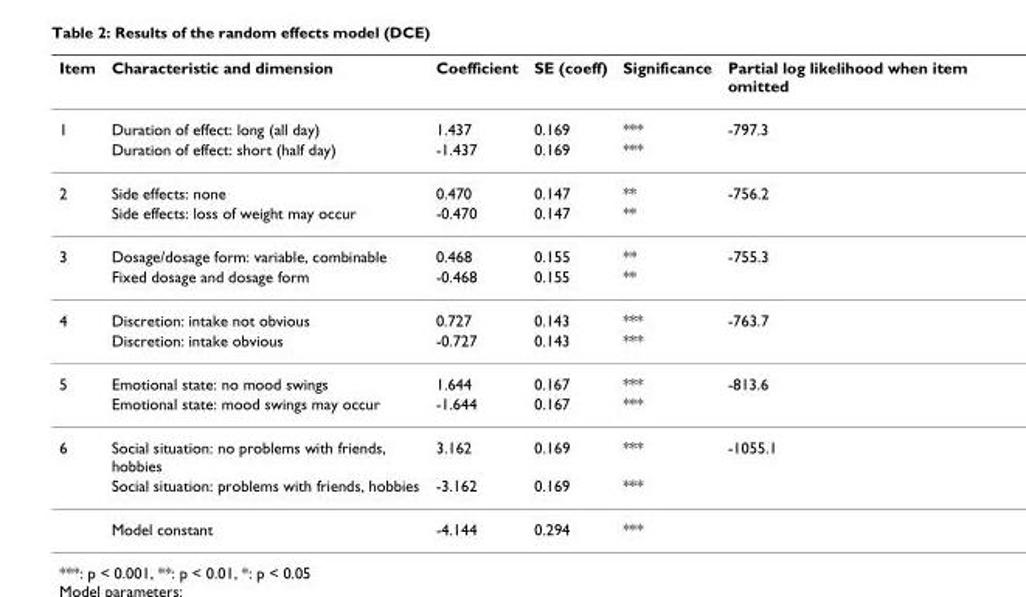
<table><thead><tr><td>Item</td><td>Characteristic and dimension</td><td>Coefficient</td><td>SE (coeff)</td><td>Significance</td><td>Partial log likelihood when item omitted</td></tr></thead><tbody><tr><td rowspan="2">1</td><td>Duration of effect: long (all day)</td><td>1.437</td><td>0.169</td><td>***</td><td>-797.3</td></tr><tr><td>Duration of effect: short (half day)</td><td>-1.437</td><td>0.169</td><td>***</td><td></td></tr><tr><td rowspan="2">2</td><td>Side effects: none</td><td>0.470</td><td>0.147</td><td>**</td><td>-756.2</td></tr><tr><td>Side effects: loss of weight may occur</td><td>-0.470</td><td>0.147</td><td>**</td><td></td></tr><tr><td rowspan="2">3</td><td>Dosage/dosage form: variable, combinable</td><td>0.468</td><td>0.155</td><td>**</td><td>-755.3</td></tr><tr><td>Fixed dosage and dosage form</td><td>-0.468</td><td>0.155</td><td>**</td><td></td></tr><tr><td rowspan="2">4</td><td>Discretion: intake not obvious</td><td>0.727</td><td>0.143</td><td>***</td><td>-763.7</td></tr><tr><td>Discretion: intake obvious</td><td>-0.727</td><td>0.143</td><td>***</td><td></td></tr><tr><td rowspan="2">5</td><td>Emotional state: no mood swings</td><td>1.644</td><td>0.167</td><td>***</td><td>-813.6</td></tr><tr><td>Emotional state: mood swings may occur</td><td>-1.644</td><td>0.167</td><td>***</td><td></td></tr><tr><td rowspan="3">6</td><td>Social situation: no problems with friends, hobbies</td><td>3.162</td><td>0.169</td><td>***</td><td>-1055.1</td></tr><tr><td>Social situation: problems with friends, hobbies</td><td>-3.162</td><td>0.169</td><td>***</td><td></td></tr><tr><td>Model constant</td><td>-4.144</td><td>0.294</td><td>***</td><td></td></tr></tbody></table>